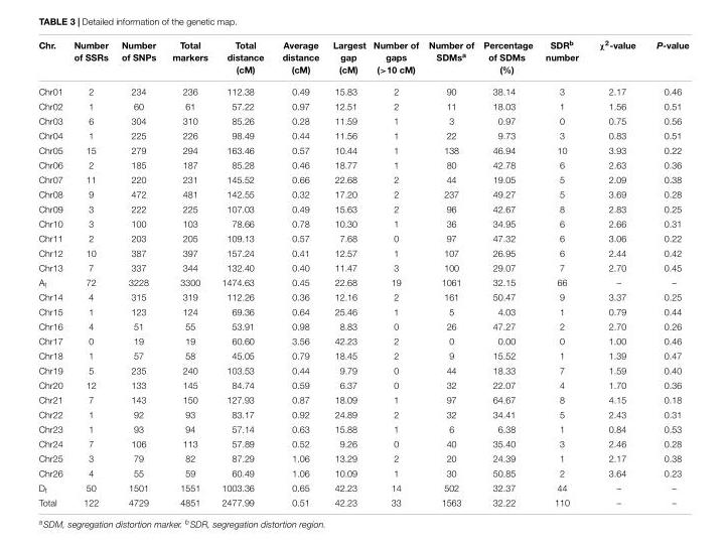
<table><thead><tr><td>Chr.</td><td>Number of SSRs</td><td>Number of SNPs</td><td>Total markers</td><td>Total distance (cM)</td><td>Average distance (cM)</td><td>Largest gap (cM)</td><td>Number of gaps (&gt;10 cM)</td><td>Number of SDMs<sup>a</sup></td><td>Percentage of SDMs (%)</td><td>SDR<sup>b</sup> number</td><td>χ<sup>2</sup>-value</td><td>P-value</td></tr></thead><tbody><tr><td>Chr01</td><td>2</td><td>234</td><td>236</td><td>112.38</td><td>0.49</td><td>15.83</td><td>2</td><td>90</td><td>38.14</td><td>3</td><td>2.17</td><td>0.46</td></tr><tr><td>Chr02</td><td>1</td><td>60</td><td>61</td><td>57.22</td><td>0.97</td><td>12.51</td><td>2</td><td>11</td><td>18.03</td><td>1</td><td>1.56</td><td>0.51</td></tr><tr><td>Chr03</td><td>6</td><td>304</td><td>310</td><td>85.26</td><td>0.28</td><td>11.59</td><td>1</td><td>3</td><td>0.97</td><td>0</td><td>0.75</td><td>0.56</td></tr><tr><td>Chr04</td><td>1</td><td>225</td><td>226</td><td>98.49</td><td>0.44</td><td>11.56</td><td>1</td><td>22</td><td>9.73</td><td>3</td><td>0.83</td><td>0.51</td></tr><tr><td>Chr05</td><td>15</td><td>279</td><td>294</td><td>163.46</td><td>0.57</td><td>10.44</td><td>1</td><td>138</td><td>46.94</td><td>10</td><td>3.93</td><td>0.22</td></tr><tr><td>Chr06</td><td>2</td><td>185</td><td>187</td><td>85.28</td><td>0.46</td><td>18.77</td><td>1</td><td>80</td><td>42.78</td><td>6</td><td>2.63</td><td>0.36</td></tr><tr><td>Chr07</td><td>11</td><td>220</td><td>231</td><td>145.52</td><td>0.66</td><td>22.68</td><td>2</td><td>44</td><td>19.05</td><td>5</td><td>2.09</td><td>0.38</td></tr><tr><td>Chr08</td><td>9</td><td>472</td><td>481</td><td>142.55</td><td>0.32</td><td>17.20</td><td>2</td><td>237</td><td>49.27</td><td>5</td><td>3.69</td><td>0.28</td></tr><tr><td>Chr09</td><td>3</td><td>222</td><td>225</td><td>107.03</td><td>0.49</td><td>15.63</td><td>2</td><td>96</td><td>42.67</td><td>8</td><td>2.83</td><td>0.25</td></tr><tr><td>Chr10</td><td>3</td><td>100</td><td>103</td><td>78.66</td><td>0.78</td><td>10.30</td><td>1</td><td>36</td><td>34.95</td><td>6</td><td>2.66</td><td>0.31</td></tr><tr><td>Chr11</td><td>2</td><td>203</td><td>205</td><td>109.13</td><td>0.57</td><td>7.68</td><td>0</td><td>97</td><td>47.32</td><td>6</td><td>3.06</td><td>0.22</td></tr><tr><td>Chr12</td><td>10</td><td>387</td><td>397</td><td>157.24</td><td>0.41</td><td>12.57</td><td>1</td><td>107</td><td>26.95</td><td>6</td><td>2.44</td><td>0.42</td></tr><tr><td>Chr13</td><td>7</td><td>337</td><td>344</td><td>132.40</td><td>0.40</td><td>11.47</td><td>3</td><td>100</td><td>29.07</td><td>7</td><td>2.70</td><td>0.45</td></tr><tr><td>A<sub>t</sub></td><td>72</td><td>3228</td><td>3300</td><td>1474.63</td><td>0.45</td><td>22.68</td><td>19</td><td>1061</td><td>32.15</td><td>66</td><td>–</td><td>–</td></tr><tr><td>Chr14</td><td>4</td><td>315</td><td>319</td><td>112.26</td><td>0.36</td><td>12.16</td><td>2</td><td>161</td><td>50.47</td><td>9</td><td>3.37</td><td>0.25</td></tr><tr><td>Chr15</td><td>1</td><td>123</td><td>124</td><td>69.36</td><td>0.64</td><td>25.46</td><td>1</td><td>5</td><td>4.03</td><td>1</td><td>0.79</td><td>0.44</td></tr><tr><td>Chr16</td><td>4</td><td>51</td><td>55</td><td>53.91</td><td>0.98</td><td>8.83</td><td>0</td><td>26</td><td>47.27</td><td>2</td><td>2.70</td><td>0.26</td></tr><tr><td>Chr17</td><td>0</td><td>19</td><td>19</td><td>60.60</td><td>3.56</td><td>42.23</td><td>2</td><td>0</td><td>0.00</td><td>0</td><td>1.00</td><td>0.46</td></tr><tr><td>Chr18</td><td>1</td><td>57</td><td>58</td><td>45.05</td><td>0.79</td><td>18.45</td><td>2</td><td>9</td><td>15.52</td><td>1</td><td>1.39</td><td>0.47</td></tr><tr><td>Chr19</td><td>5</td><td>235</td><td>240</td><td>103.53</td><td>0.44</td><td>9.79</td><td>0</td><td>44</td><td>18.33</td><td>7</td><td>1.59</td><td>0.40</td></tr><tr><td>Chr20</td><td>12</td><td>133</td><td>145</td><td>84.74</td><td>0.59</td><td>6.37</td><td>0</td><td>32</td><td>22.07</td><td>4</td><td>1.70</td><td>0.36</td></tr><tr><td>Chr21</td><td>7</td><td>143</td><td>150</td><td>127.93</td><td>0.87</td><td>18.09</td><td>1</td><td>97</td><td>64.67</td><td>8</td><td>4.15</td><td>0.18</td></tr><tr><td>Chr22</td><td>1</td><td>92</td><td>93</td><td>83.17</td><td>0.92</td><td>24.89</td><td>2</td><td>32</td><td>34.41</td><td>5</td><td>2.43</td><td>0.31</td></tr><tr><td>Chr23</td><td>1</td><td>93</td><td>94</td><td>57.14</td><td>0.63</td><td>15.88</td><td>1</td><td>6</td><td>6.38</td><td>1</td><td>0.84</td><td>0.53</td></tr><tr><td>Chr24</td><td>7</td><td>106</td><td>113</td><td>57.89</td><td>0.52</td><td>9.26</td><td>0</td><td>40</td><td>35.40</td><td>3</td><td>2.46</td><td>0.28</td></tr><tr><td>Chr25</td><td>3</td><td>79</td><td>82</td><td>87.29</td><td>1.06</td><td>13.29</td><td>2</td><td>20</td><td>24.39</td><td>1</td><td>2.17</td><td>0.38</td></tr><tr><td>Chr26</td><td>4</td><td>55</td><td>59</td><td>60.49</td><td>1.06</td><td>10.09</td><td>1</td><td>30</td><td>50.85</td><td>2</td><td>3.64</td><td>0.23</td></tr><tr><td>D<sub>t</sub></td><td>50</td><td>1501</td><td>1551</td><td>1003.36</td><td>0.65</td><td>42.23</td><td>14</td><td>502</td><td>32.37</td><td>44</td><td>–</td><td>–</td></tr><tr><td>Total</td><td>122</td><td>4729</td><td>4851</td><td>2477.99</td><td>0.51</td><td>42.23</td><td>33</td><td>1563</td><td>32.22</td><td>110</td><td>–</td><td>–</td></tr></tbody></table>